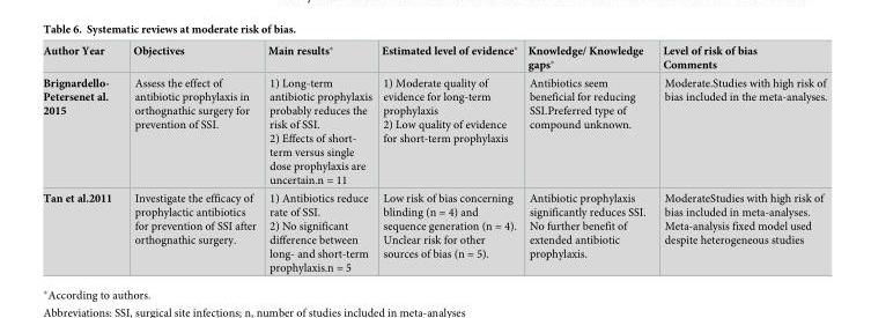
<table><thead><tr><td>Author Year</td><td>Objectives</td><td>Main results*</td><td>Estimated level of evidence*</td><td>Knowledge/ Knowledge gaps*</td><td>Level of risk of bias Comments</td></tr></thead><tbody><tr><td>Brignardello- Petersenet al. 2015</td><td>Assess the effect of antibiotic prophylaxis in orthognathic surgery for prevention of SSI.</td><td>1) Long-term antibiotic prophylaxis probably reduces the risk of SSI. 2) Effects of short- term versus single dose prophylaxis are uncertain.n = 11</td><td>1) Moderate quality of evidence for long-term prophylaxis 2) Low quality of evidence for short-term prophylaxis</td><td>Antibiotics seem beneficial for reducing SSI.Preferred type of compound unknown.</td><td>Moderate.Studies with high risk of bias included in the meta-analyses.</td></tr><tr><td>Tan et al.2011</td><td>Investigate the efficacy of prophylactic antibiotics for prevention of SSI after orthognathic surgery.</td><td>1) Antibiotics reduce rate of SSI. 2) No significant difference between long- and short-term prophylaxis.n = 5</td><td>Low risk of bias concerning blinding (n = 4) and sequence generation (n = 4). Unclear risk for other sources of bias (n = 5).</td><td>Antibiotic prophylaxis significantly reduces SSI. No further benefit of extended antibiotic prophylaxis.</td><td>ModerateStudies with high risk of bias included in meta-analyses. Meta-analysis fixed model used despite heterogeneous studies</td></tr></tbody></table>